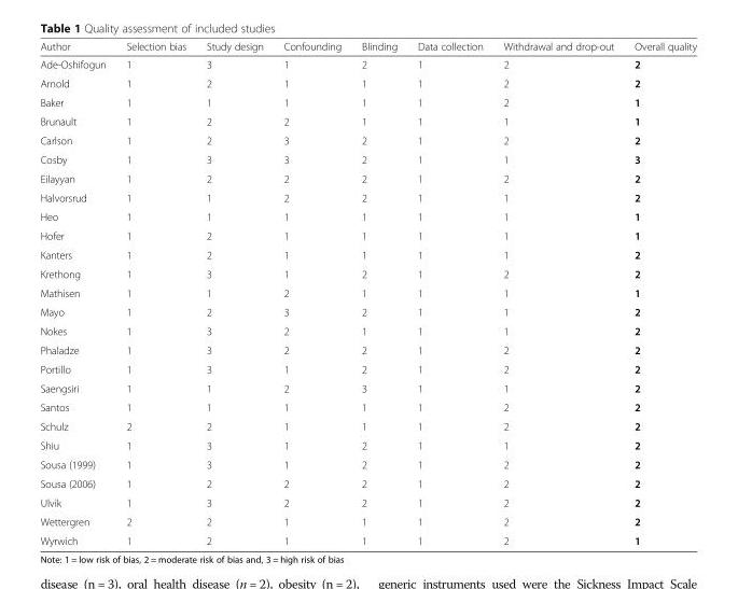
<table><thead><tr><td>Author</td><td>Selection bias</td><td>Study design</td><td>Confounding</td><td>Blinding</td><td>Data collection</td><td>Withdrawal and drop-out</td><td>Overall quality</td></tr></thead><tbody><tr><td>Ade-Oshifogun</td><td>1</td><td>3</td><td>1</td><td>2</td><td>1</td><td>2</td><td>2</td></tr><tr><td>Arnold</td><td>1</td><td>2</td><td>1</td><td>1</td><td>1</td><td>2</td><td>2</td></tr><tr><td>Baker</td><td>1</td><td>1</td><td>1</td><td>1</td><td>1</td><td>2</td><td>1</td></tr><tr><td>Brunault</td><td>1</td><td>2</td><td>2</td><td>1</td><td>1</td><td>1</td><td>1</td></tr><tr><td>Carlson</td><td>1</td><td>2</td><td>3</td><td>2</td><td>1</td><td>2</td><td>2</td></tr><tr><td>Cosby</td><td>1</td><td>3</td><td>3</td><td>2</td><td>1</td><td>1</td><td>3</td></tr><tr><td>Eilayyan</td><td>1</td><td>2</td><td>2</td><td>2</td><td>1</td><td>2</td><td>2</td></tr><tr><td>Halvorsrud</td><td>1</td><td>1</td><td>2</td><td>2</td><td>1</td><td>1</td><td>2</td></tr><tr><td>Heo</td><td>1</td><td>1</td><td>1</td><td>1</td><td>1</td><td>1</td><td>1</td></tr><tr><td>Hofer</td><td>1</td><td>2</td><td>1</td><td>1</td><td>1</td><td>1</td><td>1</td></tr><tr><td>Kanters</td><td>1</td><td>2</td><td>1</td><td>1</td><td>1</td><td>1</td><td>2</td></tr><tr><td>Krethong</td><td>1</td><td>3</td><td>1</td><td>2</td><td>1</td><td>2</td><td>2</td></tr><tr><td>Mathisen</td><td>1</td><td>1</td><td>2</td><td>1</td><td>1</td><td>1</td><td>1</td></tr><tr><td>Mayo</td><td>1</td><td>2</td><td>3</td><td>2</td><td>1</td><td>1</td><td>2</td></tr><tr><td>Nokes</td><td>1</td><td>3</td><td>2</td><td>1</td><td>1</td><td>1</td><td>2</td></tr><tr><td>Phaladze</td><td>1</td><td>3</td><td>2</td><td>2</td><td>1</td><td>2</td><td>2</td></tr><tr><td>Portillo</td><td>1</td><td>3</td><td>1</td><td>2</td><td>1</td><td>2</td><td>2</td></tr><tr><td>Saengsiri</td><td>1</td><td>1</td><td>2</td><td>3</td><td>1</td><td>1</td><td>2</td></tr><tr><td>Santos</td><td>1</td><td>1</td><td>1</td><td>1</td><td>1</td><td>2</td><td>2</td></tr><tr><td>Schulz</td><td>2</td><td>2</td><td>1</td><td>1</td><td>1</td><td>2</td><td>2</td></tr><tr><td>Shiu</td><td>1</td><td>3</td><td>1</td><td>2</td><td>1</td><td>1</td><td>2</td></tr><tr><td>Sousa (1999)</td><td>1</td><td>3</td><td>1</td><td>2</td><td>1</td><td>2</td><td>2</td></tr><tr><td>Sousa (2006)</td><td>1</td><td>2</td><td>2</td><td>2</td><td>1</td><td>2</td><td>2</td></tr><tr><td>Ulvik</td><td>1</td><td>3</td><td>2</td><td>2</td><td>1</td><td>2</td><td>2</td></tr><tr><td>Wettergren</td><td>2</td><td>2</td><td>1</td><td>1</td><td>1</td><td>2</td><td>2</td></tr><tr><td>Wyrwich</td><td>1</td><td>2</td><td>1</td><td>1</td><td>1</td><td>2</td><td>1</td></tr></tbody></table>